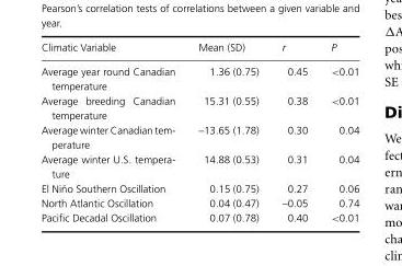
<table><thead><tr><td>Climatic Variable</td><td>Mean (SD)</td><td>r</td><td>P</td></tr></thead><tbody><tr><td>Average year round Canadian temperature</td><td>1.36 (0.75)</td><td>0.45</td><td>&lt;0.01</td></tr><tr><td>Average breeding Canadian temperature</td><td>15.31 (0.55)</td><td>0.38</td><td>&lt;0.01</td></tr><tr><td>Average winter Canadian tem- perature</td><td>–13.65 (1.78)</td><td>0.30</td><td>0.04</td></tr><tr><td>Average winter U.S. tempera- ture</td><td>14.88 (0.53)</td><td>0.31</td><td>0.04</td></tr><tr><td>El Ni ˜no Southern Oscillation</td><td>0.15 (0.75)</td><td>0.27</td><td>0.06</td></tr><tr><td>North Atlantic Oscillation</td><td>0.04 (0.47)</td><td>–0.05</td><td>0.74</td></tr><tr><td>Pacific Decadal Oscillation</td><td>0.07 (0.78)</td><td>0.40</td><td>&lt;0.01</td></tr></tbody></table>